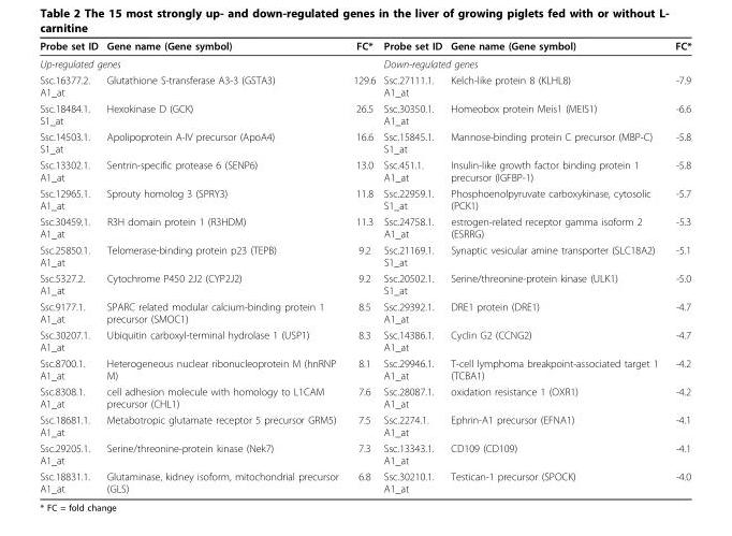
<table><thead><tr><td>Probe set ID</td><td>Gene name (Gene symbol)</td><td>FC*</td><td>Probe set ID</td><td>Gene name (Gene symbol)</td><td>FC*</td></tr></thead><tbody><tr><td colspan="3">Up-regulated genes</td><td colspan="3">Down-regulated genes</td></tr><tr><td>Ssc.16377.2. A1_at</td><td>Glutathione S-transferase A3-3 (GSTA3)</td><td>129.6</td><td>Ssc.27111.1. A1_at</td><td>Kelch-like protein 8 (KLHL8)</td><td>-7.9</td></tr><tr><td>Ssc.18484.1. S1_at</td><td>Hexokinase D (GCK)</td><td>26.5</td><td>Ssc.30350.1. A1_at</td><td>Homeobox protein Meis1 (MEIS1)</td><td>-6.6</td></tr><tr><td>Ssc.14503.1. S1_at</td><td>Apolipoprotein A-IV precursor (ApoA4)</td><td>16.6</td><td>Ssc.15845.1. S1_at</td><td>Mannose-binding protein C precursor (MBP-C)</td><td>-5.8</td></tr><tr><td>Ssc.13302.1. A1_at</td><td>Sentrin-specific protease 6 (SENP6)</td><td>13.0</td><td>Ssc.451.1. A1_at</td><td>Insulin-like growth factor binding protein 1 precursor (IGFBP-1)</td><td>-5.8</td></tr><tr><td>Ssc.12965.1. A1_at</td><td>Sprouty homolog 3 (SPRY3)</td><td>11.8</td><td>Ssc.22959.1. S1_at</td><td>Phosphoenolpyruvate carboxykinase, cytosolic (PCK1)</td><td>-5.7</td></tr><tr><td>Ssc.30459.1. A1_at</td><td>R3H domain protein 1 (R3HDM)</td><td>11.3</td><td>Ssc.24758.1. A1_at</td><td>estrogen-related receptor gamma isoform 2 (ESRRG)</td><td>-5.3</td></tr><tr><td>Ssc.25850.1. A1_at</td><td>Telomerase-binding protein p23 (TEPB)</td><td>9.2</td><td>Ssc.21169.1. S1_at</td><td>Synaptic vesicular amine transporter (SLC18A2)</td><td>-5.1</td></tr><tr><td>Ssc.5327.2. A1_at</td><td>Cytochrome P450 2J2 (CYP2J2)</td><td>9.2</td><td>Ssc.20502.1. S1_at</td><td>Serine/threonine-protein kinase (ULK1)</td><td>-5.0</td></tr><tr><td>Ssc.9177.1. A1_at</td><td>SPARC related modular calcium-binding protein 1 precursor (SMOC1)</td><td>8.5</td><td>Ssc.29392.1. A1_at</td><td>DRE1 protein (DRE1)</td><td>-4.7</td></tr><tr><td>Ssc.30207.1. A1_at</td><td>Ubiquitin carboxyl-terminal hydrolase 1 (USP1)</td><td>8.3</td><td>Ssc.14386.1. A1_at</td><td>Cyclin G2 (CCNG2)</td><td>-4.7</td></tr><tr><td>Ssc.8700.1. A1_at</td><td>Heterogeneous nuclear ribonucleoprotein M (hnRNP M)</td><td>8.1</td><td>Ssc.29946.1. A1_at</td><td>T-cell lymphoma breakpoint-associated target 1 (TCBA1)</td><td>-4.2</td></tr><tr><td>Ssc.8308.1. A1_at</td><td>cell adhesion molecule with homology to L1CAM precursor (CHL1)</td><td>7.6</td><td>Ssc.28087.1. A1_at</td><td>oxidation resistance 1 (OXR1)</td><td>-4.2</td></tr><tr><td>Ssc.18681.1. A1_at</td><td>Metabotropic glutamate receptor 5 precursor GRM5)</td><td>7.5</td><td>Ssc.2274.1. A1_at</td><td>Ephrin-A1 precursor (EFNA1)</td><td>-4.1</td></tr><tr><td>Ssc.29205.1. A1_at</td><td>Serine/threonine-protein kinase (Nek7)</td><td>7.3</td><td>Ssc.13343.1. A1_at</td><td>CD109 (CD109)</td><td>-4.1</td></tr><tr><td>Ssc.18831.1. A1_at</td><td>Glutaminase, kidney isoform, mitochondrial precursor (GLS)</td><td>6.8</td><td>Ssc.30210.1. A1_at</td><td>Testican-1 precursor (SPOCK)</td><td>-4.0</td></tr></tbody></table>